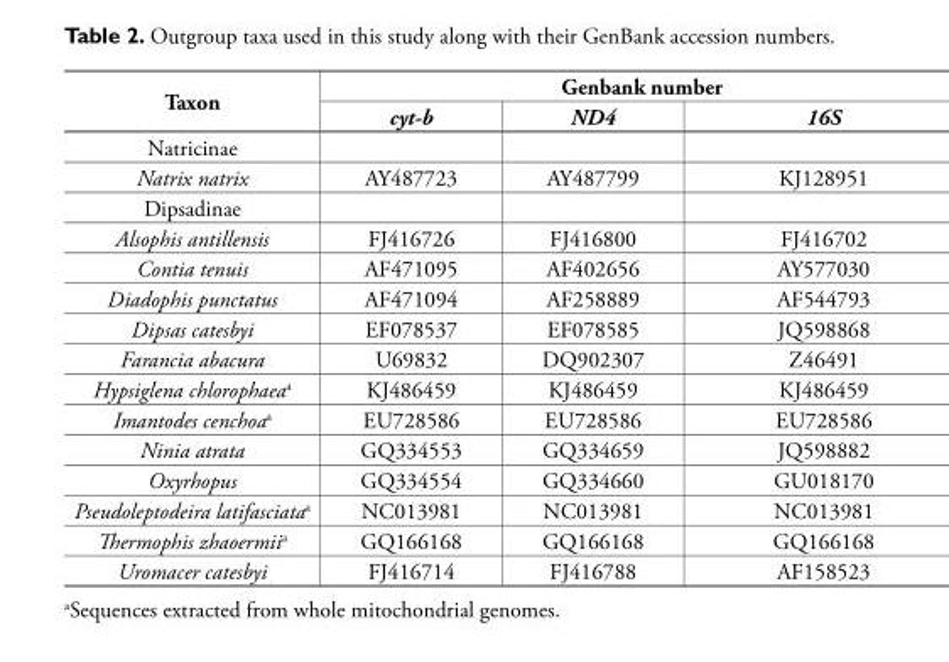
<table><thead><tr><td rowspan="2">Taxon</td><td colspan="3">Genbank number</td></tr><tr><td>cyt-b</td><td>ND4</td><td>16S</td></tr></thead><tbody><tr><td colspan="4">Natricinae</td></tr><tr><td>Natrix natrix</td><td>AY487723</td><td>AY487799</td><td>KJ128951</td></tr><tr><td colspan="4">Dipsadinae</td></tr><tr><td>Alsophis antillensis</td><td>FJ416726</td><td>FJ416800</td><td>FJ416702</td></tr><tr><td>Contia tenuis</td><td>AF471095</td><td>AF402656</td><td>AY577030</td></tr><tr><td>Diadophis punctatus</td><td>AF471094</td><td>AF258889</td><td>AF544793</td></tr><tr><td>Dipsas catesbyi</td><td>EF078537</td><td>EF078585</td><td>JQ598868</td></tr><tr><td>Farancia abacura</td><td>U69832</td><td>DQ902307</td><td>Z46491</td></tr><tr><td>Hypsiglena chlorophaea<sup>a</sup></td><td>KJ486459</td><td>KJ486459</td><td>KJ486459</td></tr><tr><td>Imantodes cenchoa<sup>a</sup></td><td>EU728586</td><td>EU728586</td><td>EU728586</td></tr><tr><td>Ninia atrata</td><td>GQ334553</td><td>GQ334659</td><td>JQ598882</td></tr><tr><td>Oxyrhopus</td><td>GQ334554</td><td>GQ334660</td><td>GU018170</td></tr><tr><td>Pseudoleptodeira latifasciata<sup>a</sup></td><td>NC013981</td><td>NC013981</td><td>NC013981</td></tr><tr><td>Thermophis zhaoermii<sup>a</sup></td><td>GQ166168</td><td>GQ166168</td><td>GQ166168</td></tr><tr><td>Uromacer catesbyi</td><td>FJ416714</td><td>FJ416788</td><td>AF158523</td></tr></tbody></table>